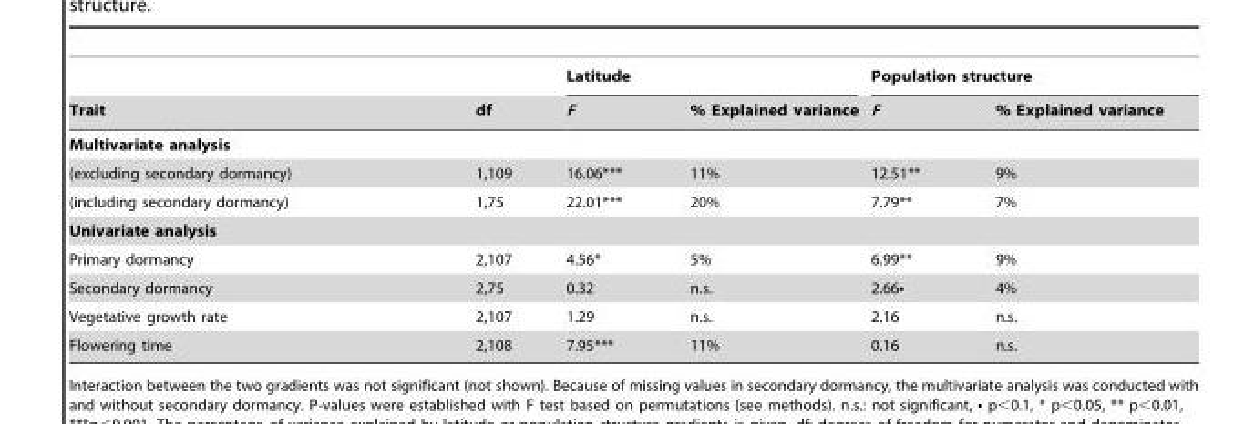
<table><thead><tr><td rowspan="2">Trait</td><td rowspan="2">df</td><td colspan="2">Latitude</td><td colspan="2">Population structure</td></tr><tr><td>F</td><td>% Explained variance</td><td>F</td><td>% Explained variance</td></tr></thead><tbody><tr><td colspan="6">Multivariate analysis</td></tr><tr><td>(excluding secondary dormancy)</td><td>1,109</td><td>16.06***</td><td>11%</td><td>12.51**</td><td>9%</td></tr><tr><td>(including secondary dormancy)</td><td>1,75</td><td>22.01***</td><td>20%</td><td>7.79**</td><td>7%</td></tr><tr><td colspan="6">Univariate analysis</td></tr><tr><td>Primary dormancy</td><td>2,107</td><td>4.56*</td><td>5%</td><td>6.99**</td><td>9%</td></tr><tr><td>Secondary dormancy</td><td>2,75</td><td>0.32</td><td>n.s.</td><td>2.66•</td><td>4%</td></tr><tr><td>Vegetative growth rate</td><td>2,107</td><td>1.29</td><td>n.s.</td><td>2.16</td><td>n.s.</td></tr><tr><td>Flowering time</td><td>2,108</td><td>7.95***</td><td>11%</td><td>0.16</td><td>n.s.</td></tr></tbody></table>